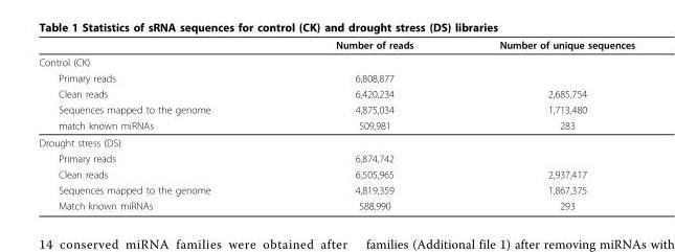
<table><thead><tr><td></td><td>Number of reads</td><td>Number of unique sequences</td></tr></thead><tbody><tr><td colspan="3">Control (CK)</td></tr><tr><td>Primary reads</td><td>6,808,877</td><td></td></tr><tr><td>Clean reads</td><td>6,420,234</td><td>2,685,754</td></tr><tr><td>Sequences mapped to the genome</td><td>4,875,034</td><td>1,713,480</td></tr><tr><td>match known miRNAs</td><td>509,981</td><td>283</td></tr><tr><td colspan="3">Drought stress (DS)</td></tr><tr><td>Primary reads</td><td>6,874,742</td><td></td></tr><tr><td>Clean reads</td><td>6,505,965</td><td>2,937,417</td></tr><tr><td>Sequences mapped to the genome</td><td>4,819,359</td><td>1,867,375</td></tr><tr><td>Match known miRNAs</td><td>588,990</td><td>293</td></tr></tbody></table>